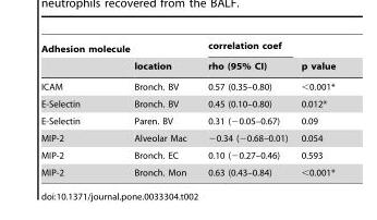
<table><thead><tr><td rowspan="2">Adhesion molecule</td><td rowspan="2">location</td><td rowspan="2">correlation coef rho (95% CI)</td><td rowspan="2">p value</td></tr><tr></tr></thead><tbody><tr><td>ICAM</td><td>Bronch. BV</td><td>0.57 (0.35–0.80)</td><td>&lt;0.001*</td></tr><tr><td>E-Selectin</td><td>Bronch. BV</td><td>0.45 (0.10–0.80)</td><td>0.012*</td></tr><tr><td>E-Selectin</td><td>Paren. BV</td><td>0.31 (−0.05–0.67)</td><td>0.09</td></tr><tr><td>MIP-2</td><td>Alveolar Mac</td><td>−0.34 (−0.68–0.01)</td><td>0.054</td></tr><tr><td>MIP-2</td><td>Bronch. EC</td><td>0.10 (−0.27–0.46)</td><td>0.593</td></tr><tr><td>MIP-2</td><td>Bronch. Mon</td><td>0.63 (0.43–0.84)</td><td>&lt;0.001*</td></tr></tbody></table>